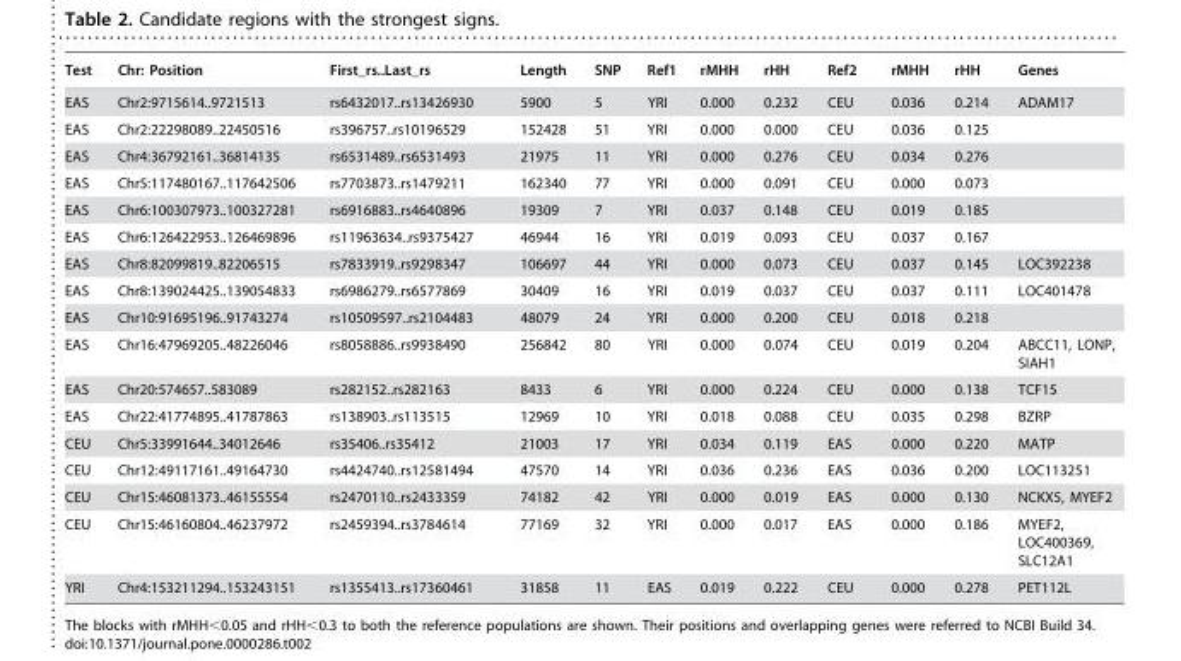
<table><thead><tr><td>Test</td><td>Chr: Position</td><td>First_rs..Last_rs</td><td>Length</td><td>SNP</td><td>Ref1</td><td>rMHH</td><td>rHH</td><td>Ref2</td><td>rMHH</td><td>rHH</td><td>Genes</td></tr></thead><tbody><tr><td>EAS</td><td>Chr2:9715614..9721513</td><td>rs6432017..rs13426930</td><td>5900</td><td>5</td><td>YRI</td><td>0.000</td><td>0.232</td><td>CEU</td><td>0.036</td><td>0.214</td><td>ADAM17</td></tr><tr><td>EAS</td><td>Chr2:22298089..22450516</td><td>rs396757..rs10196529</td><td>152428</td><td>51</td><td>YRI</td><td>0.000</td><td>0.000</td><td>CEU</td><td>0.036</td><td>0.125</td><td></td></tr><tr><td>EAS</td><td>Chr4:36792161..36814135</td><td>rs6531489..rs6531493</td><td>21975</td><td>11</td><td>YRI</td><td>0.000</td><td>0.276</td><td>CEU</td><td>0.034</td><td>0.276</td><td></td></tr><tr><td>EAS</td><td>Chr5:117480167..117642506</td><td>rs7703873..rs1479211</td><td>162340</td><td>77</td><td>YRI</td><td>0.000</td><td>0.091</td><td>CEU</td><td>0.000</td><td>0.073</td><td></td></tr><tr><td>EAS</td><td>Chr6:100307973..100327281</td><td>rs6916883..rs4640896</td><td>19309</td><td>7</td><td>YRI</td><td>0.037</td><td>0.148</td><td>CEU</td><td>0.019</td><td>0.185</td><td></td></tr><tr><td>EAS</td><td>Chr6:126422953..126469896</td><td>rs11963634..rs9375427</td><td>46944</td><td>16</td><td>YRI</td><td>0.019</td><td>0.093</td><td>CEU</td><td>0.037</td><td>0.167</td><td></td></tr><tr><td>EAS</td><td>Chr8:82099819..82206515</td><td>rs7833919..rs9298347</td><td>106697</td><td>44</td><td>YRI</td><td>0.000</td><td>0.073</td><td>CEU</td><td>0.037</td><td>0.145</td><td>LOC392238</td></tr><tr><td>EAS</td><td>Chr8:139024425..139054833</td><td>rs6986279..rs6577869</td><td>30409</td><td>16</td><td>YRI</td><td>0.019</td><td>0.037</td><td>CEU</td><td>0.037</td><td>0.111</td><td>LOC401478</td></tr><tr><td>EAS</td><td>Chr10:91695196..91743274</td><td>rs10509597..rs2104483</td><td>48079</td><td>24</td><td>YRI</td><td>0.000</td><td>0.200</td><td>CEU</td><td>0.018</td><td>0.218</td><td></td></tr><tr><td>EAS</td><td>Chr16:47969205..48226046</td><td>rs8058886..rs9938490</td><td>256842</td><td>80</td><td>YRI</td><td>0.000</td><td>0.074</td><td>CEU</td><td>0.019</td><td>0.204</td><td>ABCC11, LONP, SIAH1</td></tr><tr><td>EAS</td><td>Chr20:574657..583089</td><td>rs282152..rs282163</td><td>8433</td><td>6</td><td>YRI</td><td>0.000</td><td>0.224</td><td>CEU</td><td>0.000</td><td>0.138</td><td>TCF15</td></tr><tr><td>EAS</td><td>Chr22:41774895..41787863</td><td>rs138903..rs113515</td><td>12969</td><td>10</td><td>YRI</td><td>0.018</td><td>0.088</td><td>CEU</td><td>0.035</td><td>0.298</td><td>BZRP</td></tr><tr><td>CEU</td><td>Chr5:33991644..34012646</td><td>rs35406..rs35412</td><td>21003</td><td>17</td><td>YRI</td><td>0.034</td><td>0.119</td><td>EAS</td><td>0.000</td><td>0.220</td><td>MATP</td></tr><tr><td>CEU</td><td>Chr12:49117161..49164730</td><td>rs4424740..rs12581494</td><td>47570</td><td>14</td><td>YRI</td><td>0.036</td><td>0.236</td><td>EAS</td><td>0.036</td><td>0.200</td><td>LOC113251</td></tr><tr><td>CEU</td><td>Chr15:46081373..46155554</td><td>rs2470110..rs2433359</td><td>74182</td><td>42</td><td>YRI</td><td>0.000</td><td>0.019</td><td>EAS</td><td>0.000</td><td>0.130</td><td>NCKX5, MYEF2</td></tr><tr><td>CEU</td><td>Chr15:46160804..46237972</td><td>rs2459394..rs3784614</td><td>77169</td><td>32</td><td>YRI</td><td>0.000</td><td>0.017</td><td>EAS</td><td>0.000</td><td>0.186</td><td>MYEF2, LOC400369, SLC12A1</td></tr><tr><td>YRI</td><td>Chr4:153211294..153243151</td><td>rs1355413..rs17360461</td><td>31858</td><td>11</td><td>EAS</td><td>0.019</td><td>0.222</td><td>CEU</td><td>0.000</td><td>0.278</td><td>PET112L</td></tr></tbody></table>